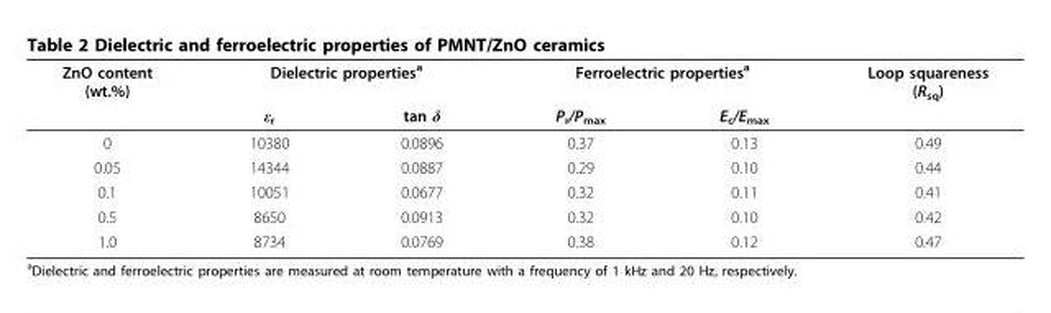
<table><thead><tr><td rowspan="2">ZnO content (wt.%)</td><td colspan="2">Dielectric properties<sup>a</sup></td><td colspan="2">Ferroelectric properties<sup>a</sup></td><td rowspan="2">Loop squareness (R<sub>sq</sub>)</td></tr><tr><td>ε<sub>r</sub></td><td>tan δ</td><td>P<sub>r</sub>/P<sub>max</sub></td><td>E<sub>c</sub>/E<sub>max</sub></td></tr></thead><tbody><tr><td>0</td><td>10380</td><td>0.0896</td><td>0.37</td><td>0.13</td><td>0.49</td></tr><tr><td>0.05</td><td>14344</td><td>0.0887</td><td>0.29</td><td>0.10</td><td>0.44</td></tr><tr><td>0.1</td><td>10051</td><td>0.0677</td><td>0.32</td><td>0.11</td><td>0.41</td></tr><tr><td>0.5</td><td>8650</td><td>0.0913</td><td>0.32</td><td>0.10</td><td>0.42</td></tr><tr><td>1.0</td><td>8734</td><td>0.0769</td><td>0.38</td><td>0.12</td><td>0.47</td></tr></tbody></table>